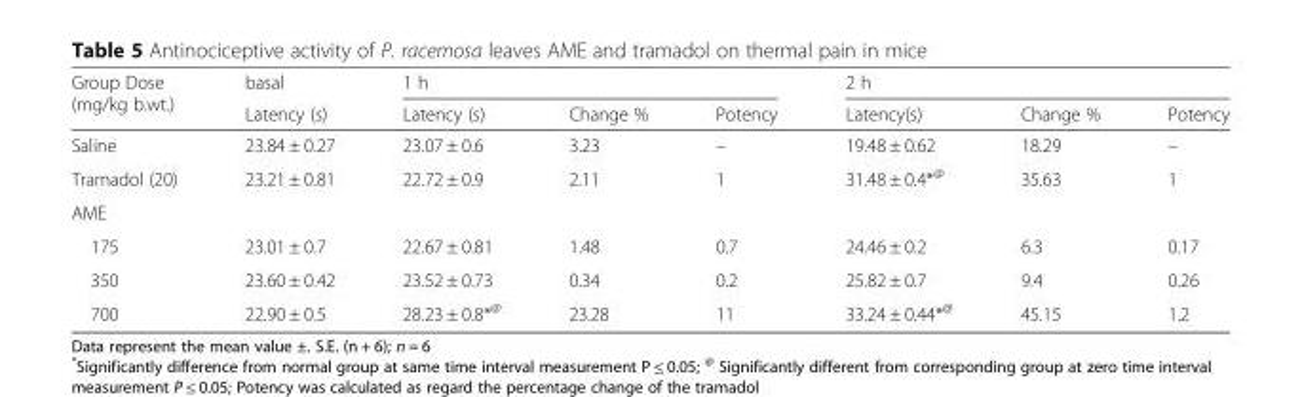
<table><thead><tr><td rowspan="2">Group Dose (mg/kg b.wt.)</td><td rowspan="2">basal Latency (s)</td><td colspan="3">1 h</td><td colspan="3">2 h</td></tr><tr><td>Latency (s)</td><td>Change %</td><td>Potency</td><td>Latency(s)</td><td>Change %</td><td>Potency</td></tr></thead><tbody><tr><td>Saline</td><td>23.84 ± 0.27</td><td>23.07 ± 0.6</td><td>3.23</td><td>–</td><td>19.48 ± 0.62</td><td>18.29</td><td>–</td></tr><tr><td>Tramadol (20)</td><td>23.21 ± 0.81</td><td>22.72 ± 0.9</td><td>2.11</td><td>1</td><td>31.48 ± 0.4*<sup>@</sup></td><td>35.63</td><td>1</td></tr><tr><td colspan="8">AME</td></tr><tr><td>175</td><td>23.01 ± 0.7</td><td>22.67 ± 0.81</td><td>1.48</td><td>0.7</td><td>24.46 ± 0.2</td><td>6.3</td><td>0.17</td></tr><tr><td>350</td><td>23.60 ± 0.42</td><td>23.52 ± 0.73</td><td>0.34</td><td>0.2</td><td>25.82 ± 0.7</td><td>9.4</td><td>0.26</td></tr><tr><td>700</td><td>22.90 ± 0.5</td><td>28.23 ± 0.8*<sup>@</sup></td><td>23.28</td><td>11</td><td>33.24 ± 0.44*<sup>@</sup></td><td>45.15</td><td>1.2</td></tr></tbody></table>